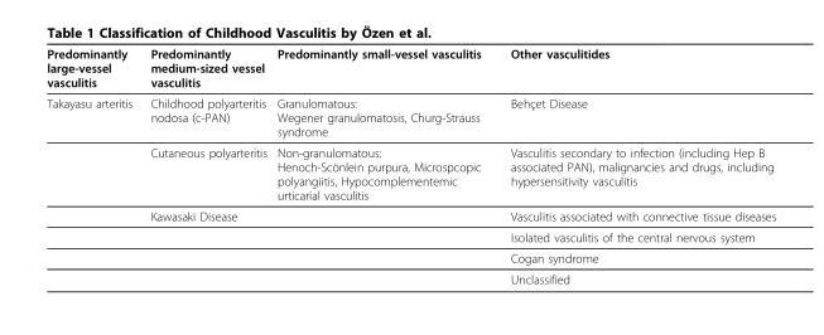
<table><thead><tr><td>Predominantly large-vessel vasculitis</td><td>Predominantly medium-sized vessel vasculitis</td><td>Predominantly small-vessel vasculitis</td><td>Other vasculitides</td></tr></thead><tbody><tr><td rowspan="6">Takayasu arteritis</td><td>Childhood polyarteritis nodosa (c-PAN)</td><td>Granulomatous: Wegener granulomatosis, Churg-Strauss syndrome</td><td>Behçet Disease</td></tr><tr><td>Cutaneous polyarteritis</td><td>Non-granulomatous: Henoch-Scönlein purpura, Microspcopic polyangiitis, Hypocomplementemic urticarial vasculitis</td><td>Vasculitis secondary to infection (including Hep B associated PAN), malignancies and drugs, including hypersensitivity vasculitis</td></tr><tr><td>Kawasaki Disease</td><td></td><td>Vasculitis associated with connective tissue diseases</td></tr><tr><td></td><td></td><td>Isolated vasculitis of the central nervous system</td></tr><tr><td></td><td></td><td>Cogan syndrome</td></tr><tr><td></td><td></td><td>Unclassified</td></tr></tbody></table>